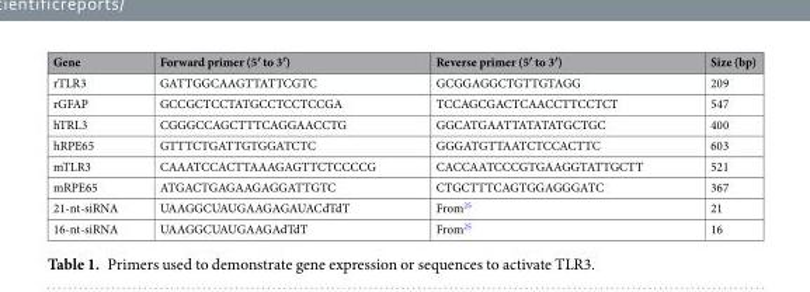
<table><thead><tr><td>Gene</td><td>Forward primer (5′ to 3′)</td><td>Reverse primer (5′ to 3′)</td><td>Size (bp)</td></tr></thead><tbody><tr><td>rTLR3</td><td>GATTGGCAAGTTATTCGTC</td><td>GCGGAGGCTGTTGTAGG</td><td>209</td></tr><tr><td>rGFAP</td><td>GCCGCTCCTATGCCTCCTCCGA</td><td>TCCAGCGACTCAACCTTCCTCT</td><td>547</td></tr><tr><td>hTRL3</td><td>CGGGCCAGCTTTCAGGAACCTG</td><td>GGCATGAATTATATATGCTGC</td><td>400</td></tr><tr><td>hRPE65</td><td>GTTTCTGATTGTGGATCTC</td><td>GGGATGTTAATCTCCACTTC</td><td>603</td></tr><tr><td>mTLR3</td><td>CAAATCCACTTAAAGAGTTCTCCCCG</td><td>CACCAATCCCGTGAAGGTATTGCTT</td><td>521</td></tr><tr><td>mRPE65</td><td>ATGACTGAGAAGAGGATTGTC</td><td>CTGCTTTCAGTGGAGGGATC</td><td>367</td></tr><tr><td>21-nt-siRNA</td><td>UAAGGCUAUGAAGAGAUACdTdT</td><td>From<sup>25</sup></td><td>21</td></tr><tr><td>16-nt-siRNA</td><td>UAAGGCUAUGAAGAdTdT</td><td>From<sup>25</sup></td><td>16</td></tr></tbody></table>